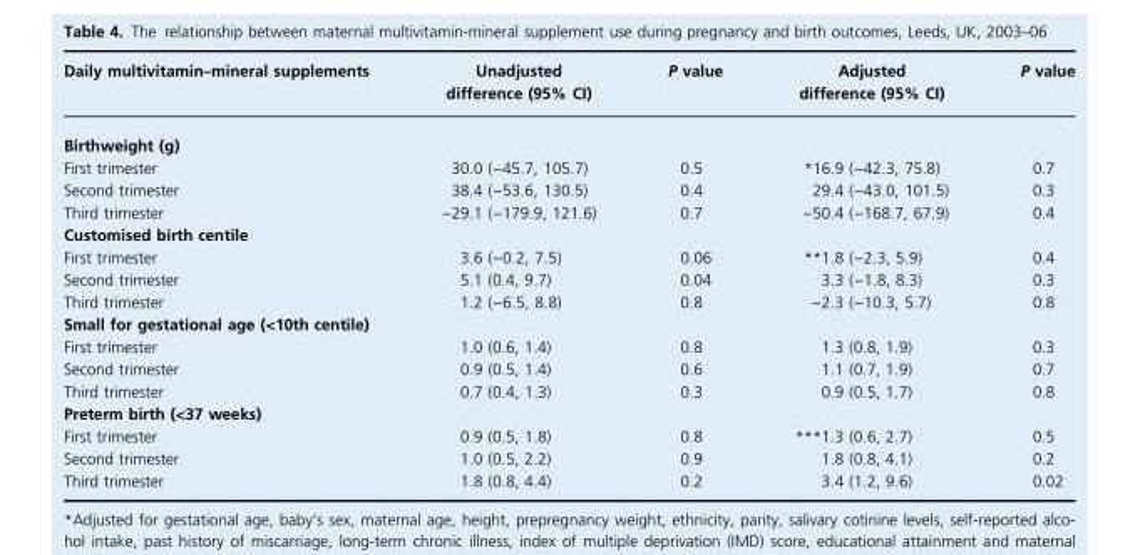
<table><thead><tr><td>Daily multivitamin–mineral supplements</td><td>Unadjusted difference (95% CI)</td><td>P value</td><td>Adjusted difference (95% CI)</td><td>P value</td></tr></thead><tbody><tr><td colspan="5">Birthweight (g)</td></tr><tr><td>First trimester</td><td>30.0 (−45.7, 105.7)</td><td>0.5</td><td>*16.9 (−42.3, 75.8)</td><td>0.7</td></tr><tr><td>Second trimester</td><td>38.4 (−53.6, 130.5)</td><td>0.4</td><td>29.4 (−43.0, 101.5)</td><td>0.3</td></tr><tr><td>Third trimester</td><td>−29.1 (−179.9, 121.6)</td><td>0.7</td><td>−50.4 (−168.7, 67.9)</td><td>0.4</td></tr><tr><td colspan="5">Customised birth centile</td></tr><tr><td>First trimester</td><td>3.6 (−0.2, 7.5)</td><td>0.06</td><td>**1.8 (−2.3, 5.9)</td><td>0.4</td></tr><tr><td>Second trimester</td><td>5.1 (0.4, 9.7)</td><td>0.04</td><td>3.3 (−1.8, 8.3)</td><td>0.3</td></tr><tr><td>Third trimester</td><td>1.2 (−6.5, 8.8)</td><td>0.8</td><td>−2.3 (−10.3, 5.7)</td><td>0.8</td></tr><tr><td colspan="5">Small for gestational age (&lt;10th centile)</td></tr><tr><td>First trimester</td><td>1.0 (0.6, 1.4)</td><td>0.8</td><td>1.3 (0.8, 1.9)</td><td>0.3</td></tr><tr><td>Second trimester</td><td>0.9 (0.5, 1.4)</td><td>0.6</td><td>1.1 (0.7, 1.9)</td><td>0.7</td></tr><tr><td>Third trimester</td><td>0.7 (0.4, 1.3)</td><td>0.3</td><td>0.9 (0.5, 1.7)</td><td>0.8</td></tr><tr><td colspan="5">Preterm birth (&lt;37 weeks)</td></tr><tr><td>First trimester</td><td>0.9 (0.5, 1.8)</td><td>0.8</td><td>***1.3 (0.6, 2.7)</td><td>0.5</td></tr><tr><td>Second trimester</td><td>1.0 (0.5, 2.2)</td><td>0.9</td><td>1.8 (0.8, 4.1)</td><td>0.2</td></tr><tr><td>Third trimester</td><td>1.8 (0.8, 4.4)</td><td>0.2</td><td>3.4 (1.2, 9.6)</td><td>0.02</td></tr></tbody></table>